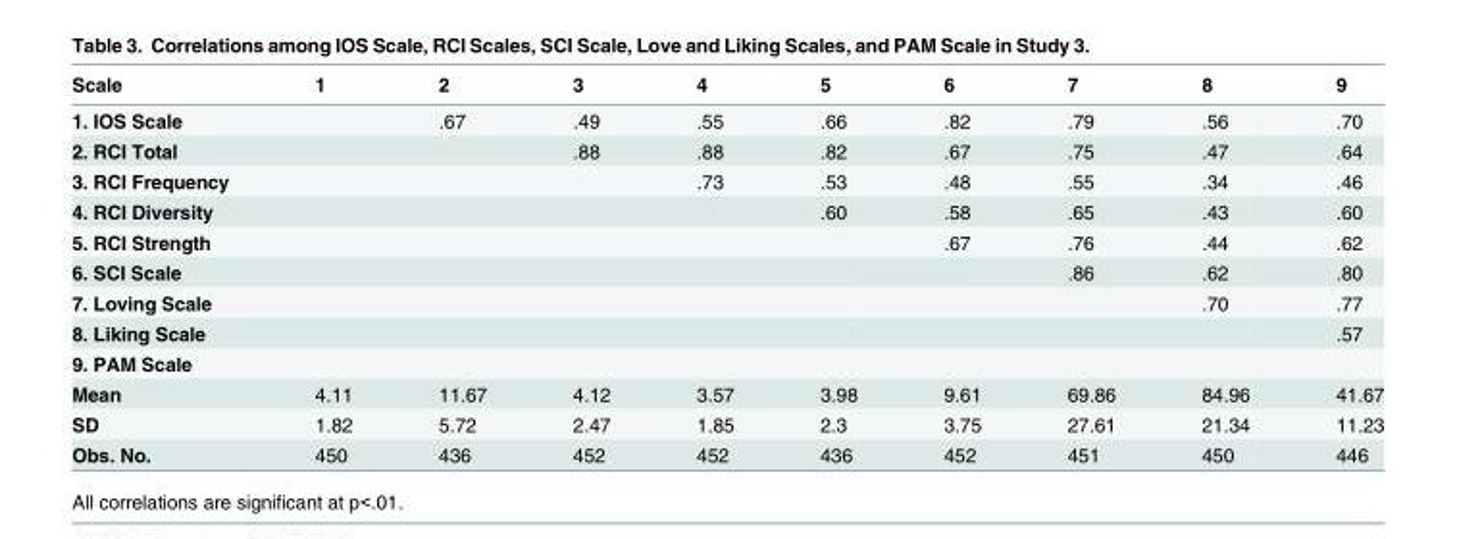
<table><thead><tr><td>Scale</td><td>1</td><td>2</td><td>3</td><td>4</td><td>5</td><td>6</td><td>7</td><td>8</td><td>9</td></tr></thead><tbody><tr><td>1. IOS Scale</td><td></td><td>.67</td><td>.49</td><td>.55</td><td>.66</td><td>.82</td><td>.79</td><td>.56</td><td>.70</td></tr><tr><td>2. RCI Total</td><td></td><td></td><td>.88</td><td>.88</td><td>.82</td><td>.67</td><td>.75</td><td>.47</td><td>.64</td></tr><tr><td>3. RCI Frequency</td><td></td><td></td><td></td><td>.73</td><td>.53</td><td>.48</td><td>.55</td><td>.34</td><td>.46</td></tr><tr><td>4. RCI Diversity</td><td></td><td></td><td></td><td></td><td>.60</td><td>.58</td><td>.65</td><td>.43</td><td>.60</td></tr><tr><td>5. RCI Strength</td><td></td><td></td><td></td><td></td><td></td><td>.67</td><td>.76</td><td>.44</td><td>.62</td></tr><tr><td>6. SCI Scale</td><td></td><td></td><td></td><td></td><td></td><td></td><td>.86</td><td>.62</td><td>.80</td></tr><tr><td>7. Loving Scale</td><td></td><td></td><td></td><td></td><td></td><td></td><td></td><td>.70</td><td>.77</td></tr><tr><td>8. Liking Scale</td><td></td><td></td><td></td><td></td><td></td><td></td><td></td><td></td><td>.57</td></tr><tr><td colspan="10">9. PAM Scale</td></tr><tr><td>Mean</td><td>4.11</td><td>11.67</td><td>4.12</td><td>3.57</td><td>3.98</td><td>9.61</td><td>69.86</td><td>84.96</td><td>41.67</td></tr><tr><td>SD</td><td>1.82</td><td>5.72</td><td>2.47</td><td>1.85</td><td>2.3</td><td>3.75</td><td>27.61</td><td>21.34</td><td>11.23</td></tr><tr><td>Obs. No.</td><td>450</td><td>436</td><td>452</td><td>452</td><td>436</td><td>452</td><td>451</td><td>450</td><td>446</td></tr></tbody></table>